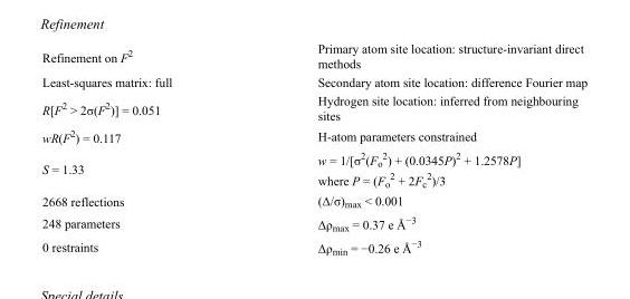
<table><tbody><tr><td>Refinement on F<sup>2</sup></td><td>Primary atom site location: structure-invariant direct methods</td></tr><tr><td>Least-squares matrix: full</td><td>Secondary atom site location: difference Fourier map</td></tr><tr><td>R[F<sup>2</sup> &gt; 2σ(F<sup>2</sup>)] = 0.051</td><td>Hydrogen site location: inferred from neighbouring sites</td></tr><tr><td>wR(F<sup>2</sup>) = 0.117</td><td>H-atom parameters constrained</td></tr><tr><td>S = 1.33</td><td>w = 1/[σ<sup>2</sup>(F<sub>o</sub> <sup>2</sup>) + (0.0345P)<sup>2</sup> + 1.2578P] where P = (F<sub>o</sub> <sup>2</sup> + 2F<sub>c</sub> <sup>2</sup>)/3</td></tr><tr><td>2668 reflections</td><td>(Δ/σ)<sub>max</sub> &lt; 0.001</td></tr><tr><td>248 parameters</td><td>Δρ<sub>max</sub> = 0.37 e Å<sup>−3</sup></td></tr><tr><td>0 restraints</td><td>Δρ<sub>min</sub> = −0.26 e Å<sup>−3</sup></td></tr></tbody></table>